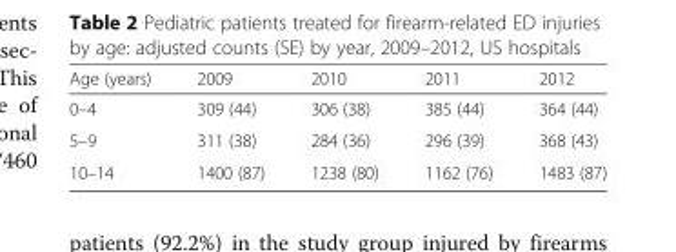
<table><thead><tr><td>Age (years)</td><td>2009</td><td>2010</td><td>2011</td><td>2012</td></tr></thead><tbody><tr><td>0–4</td><td>309 (44)</td><td>306 (38)</td><td>385 (44)</td><td>364 (44)</td></tr><tr><td>5–9</td><td>311 (38)</td><td>284 (36)</td><td>296 (39)</td><td>368 (43)</td></tr><tr><td>10–14</td><td>1400 (87)</td><td>1238 (80)</td><td>1162 (76)</td><td>1483 (87)</td></tr></tbody></table>